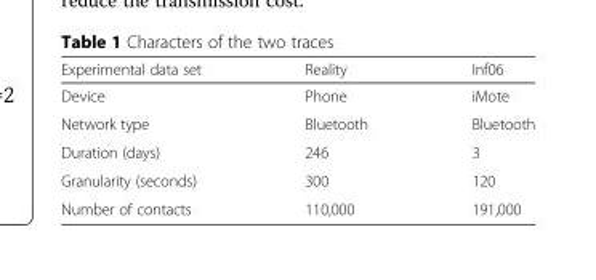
<table><thead><tr><td>Experimental data set</td><td>Reality</td><td>Inf06</td></tr></thead><tbody><tr><td>Device</td><td>Phone</td><td>iMote</td></tr><tr><td>Network type</td><td>Bluetooth</td><td>Bluetooth</td></tr><tr><td>Duration (days)</td><td>246</td><td>3</td></tr><tr><td>Granularity (seconds)</td><td>300</td><td>120</td></tr><tr><td>Number of contacts</td><td>110,000</td><td>191,000</td></tr></tbody></table>